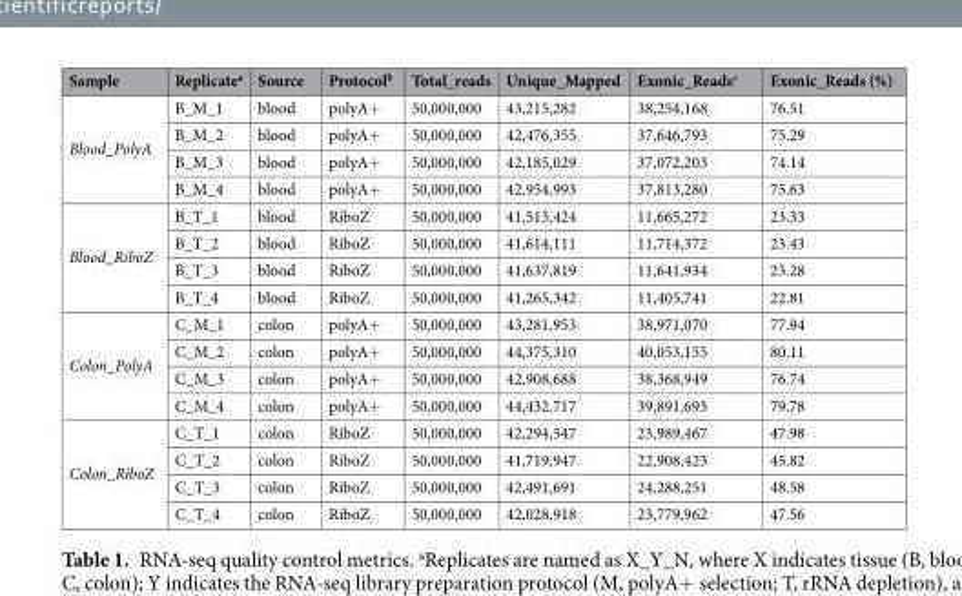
<table><thead><tr><td>Sample</td><td>Replicate<sup>a</sup></td><td>Source</td><td>Protocol<sup>b</sup></td><td>Total_reads</td><td>Unique_Mapped</td><td>Exonic_Reads<sup>c</sup></td><td>Exonic_Reads (%)</td></tr></thead><tbody><tr><td rowspan="4">Blood_PolyA</td><td>B_M_1</td><td>blood</td><td>polyA+</td><td>50,000,000</td><td>43,215,282</td><td>38,254,168</td><td>76.51</td></tr><tr><td>B_M_2</td><td>blood</td><td>polyA+</td><td>50,000,000</td><td>42,476,355</td><td>37,646,793</td><td>75.29</td></tr><tr><td>B_M_3</td><td>blood</td><td>polyA+</td><td>50,000,000</td><td>42,185,029</td><td>37,072,203</td><td>74.14</td></tr><tr><td>B_M_4</td><td>blood</td><td>polyA+</td><td>50,000,000</td><td>42,954,993</td><td>37,813,280</td><td>75.63</td></tr><tr><td rowspan="4">Blood_RiboZ</td><td>B_T_1</td><td>blood</td><td>RiboZ</td><td>50,000,000</td><td>41,513,424</td><td>11,665,272</td><td>23.33</td></tr><tr><td>B_T_2</td><td>blood</td><td>RiboZ</td><td>50,000,000</td><td>41,614,111</td><td>11,714,372</td><td>23.43</td></tr><tr><td>B_T_3</td><td>blood</td><td>RiboZ</td><td>50,000,000</td><td>41,637,819</td><td>11,641,934</td><td>23.28</td></tr><tr><td>B_T_4</td><td>blood</td><td>RiboZ</td><td>50,000,000</td><td>41,265,342</td><td>11,405,741</td><td>22.81</td></tr><tr><td rowspan="4">Colon_PolyA</td><td>C_M_1</td><td>colon</td><td>polyA+</td><td>50,000,000</td><td>43,281,953</td><td>38,971,070</td><td>77.94</td></tr><tr><td>C_M_2</td><td>colon</td><td>polyA+</td><td>50,000,000</td><td>44,375,310</td><td>40,053,155</td><td>80.11</td></tr><tr><td>C_M_3</td><td>colon</td><td>polyA+</td><td>50,000,000</td><td>42,908,688</td><td>38,368,949</td><td>76.74</td></tr><tr><td>C_M_4</td><td>colon</td><td>polyA+</td><td>50,000,000</td><td>44,432,717</td><td>39,891,693</td><td>79.78</td></tr><tr><td rowspan="4">Colon_RiboZ</td><td>C_T_1</td><td>colon</td><td>RiboZ</td><td>50,000,000</td><td>42,294,547</td><td>23,989,467</td><td>47.98</td></tr><tr><td>C_T_2</td><td>colon</td><td>RiboZ</td><td>50,000,000</td><td>41,719,947</td><td>22,908,423</td><td>45.82</td></tr><tr><td>C_T_3</td><td>colon</td><td>RiboZ</td><td>50,000,000</td><td>42,491,691</td><td>24,288,251</td><td>48.58</td></tr><tr><td>C_T_4</td><td>colon</td><td>RiboZ</td><td>50,000,000</td><td>42,028,918</td><td>23,779,962</td><td>47.56</td></tr></tbody></table>